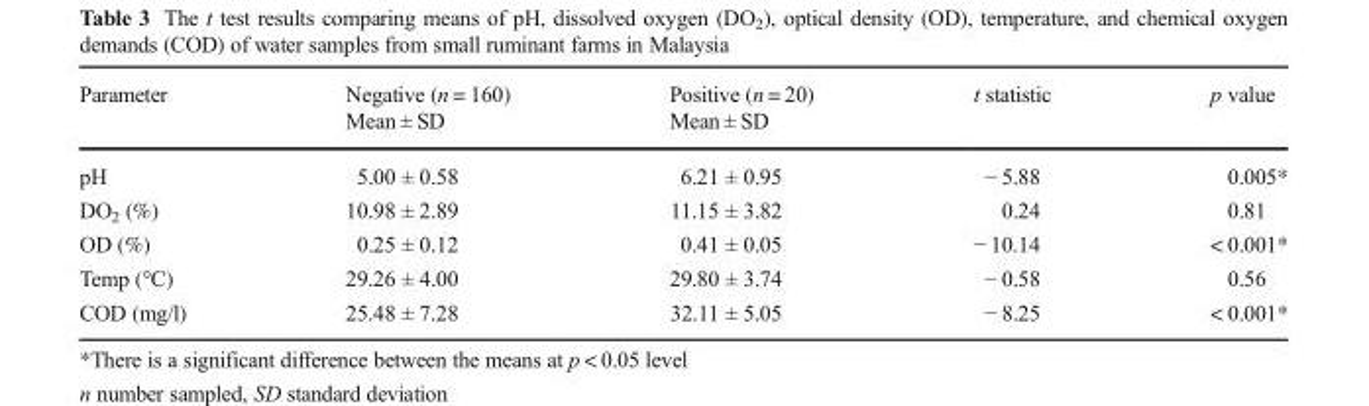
<table><thead><tr><td>Parameter</td><td>Negative (n = 160) Mean ± SD</td><td>Positive (n = 20) Mean ± SD</td><td>t statistic</td><td>p value</td></tr></thead><tbody><tr><td>pH</td><td>5.00 ± 0.58</td><td>6.21 ± 0.95</td><td>− 5.88</td><td>0.005*</td></tr><tr><td>DO<sub>2</sub> (%)</td><td>10.98 ± 2.89</td><td>11.15 ± 3.82</td><td>0.24</td><td>0.81</td></tr><tr><td>OD (%)</td><td>0.25 ± 0.12</td><td>0.41 ± 0.05</td><td>− 10.14</td><td>&lt; 0.001*</td></tr><tr><td>Temp (°C)</td><td>29.26 ± 4.00</td><td>29.80 ± 3.74</td><td>− 0.58</td><td>0.56</td></tr><tr><td>COD (mg/l)</td><td>25.48 ± 7.28</td><td>32.11 ± 5.05</td><td>− 8.25</td><td>&lt; 0.001*</td></tr></tbody></table>